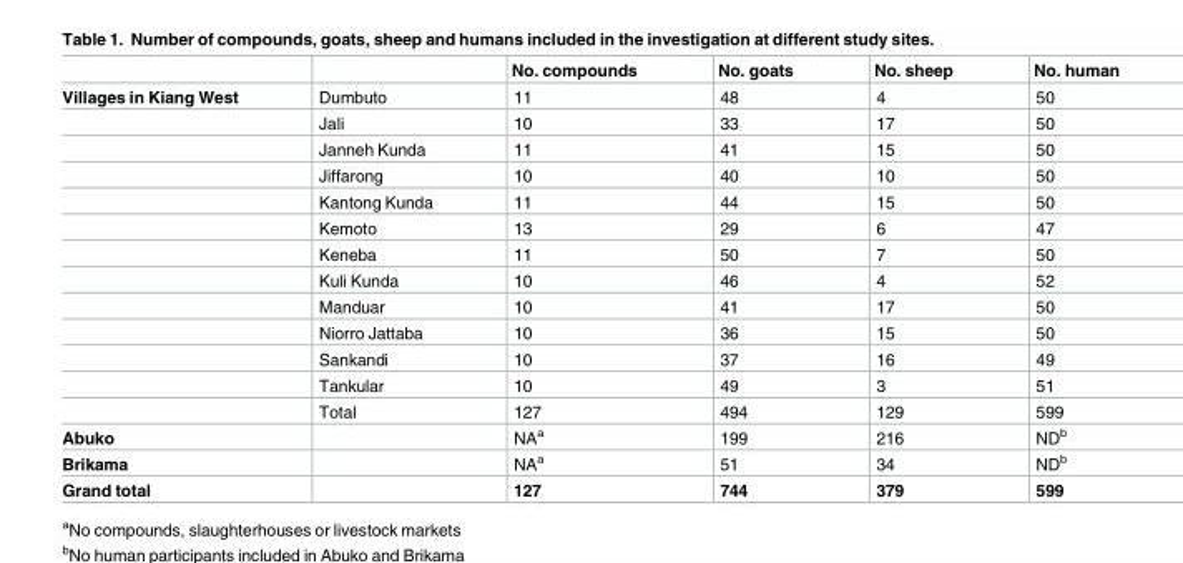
<table><thead><tr><td></td><td></td><td>No. compounds</td><td>No. goats</td><td>No. sheep</td><td>No. human</td></tr></thead><tbody><tr><td rowspan="13">Villages in Kiang West</td><td>Dumbuto</td><td>11</td><td>48</td><td>4</td><td>50</td></tr><tr><td>Jali</td><td>10</td><td>33</td><td>17</td><td>50</td></tr><tr><td>Janneh Kunda</td><td>11</td><td>41</td><td>15</td><td>50</td></tr><tr><td>Jiffarong</td><td>10</td><td>40</td><td>10</td><td>50</td></tr><tr><td>Kantong Kunda</td><td>11</td><td>44</td><td>15</td><td>50</td></tr><tr><td>Kemoto</td><td>13</td><td>29</td><td>6</td><td>47</td></tr><tr><td>Keneba</td><td>11</td><td>50</td><td>7</td><td>50</td></tr><tr><td>Kuli Kunda</td><td>10</td><td>46</td><td>4</td><td>52</td></tr><tr><td>Manduar</td><td>10</td><td>41</td><td>17</td><td>50</td></tr><tr><td>Niorro Jattaba</td><td>10</td><td>36</td><td>15</td><td>50</td></tr><tr><td>Sankandi</td><td>10</td><td>37</td><td>16</td><td>49</td></tr><tr><td>Tankular</td><td>10</td><td>49</td><td>3</td><td>51</td></tr><tr><td>Total</td><td>127</td><td>494</td><td>129</td><td>599</td></tr><tr><td>Abuko</td><td></td><td>NA<sup>a</sup></td><td>199</td><td>216</td><td>ND<sup>b</sup></td></tr><tr><td>Brikama</td><td></td><td>NA<sup>a</sup></td><td>51</td><td>34</td><td>ND<sup>b</sup></td></tr><tr><td>Grand total</td><td></td><td>127</td><td>744</td><td>379</td><td>599</td></tr></tbody></table>